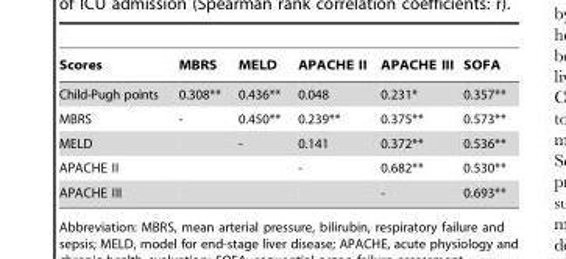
<table><thead><tr><td>Scores</td><td>MBRS</td><td>MELD</td><td>APACHE II</td><td>APACHE III</td><td>SOFA</td></tr></thead><tbody><tr><td>Child-Pugh points</td><td>0.308**</td><td>0.436**</td><td>0.048</td><td>0.231*</td><td>0.357**</td></tr><tr><td>MBRS</td><td>-</td><td>0.450**</td><td>0.239**</td><td>0.375**</td><td>0.573**</td></tr><tr><td>MELD</td><td></td><td>-</td><td>0.141</td><td>0.372**</td><td>0.536**</td></tr><tr><td>APACHE II</td><td></td><td></td><td>-</td><td>0.682**</td><td>0.530**</td></tr><tr><td>APACHE III</td><td></td><td></td><td></td><td>-</td><td>0.693**</td></tr></tbody></table>